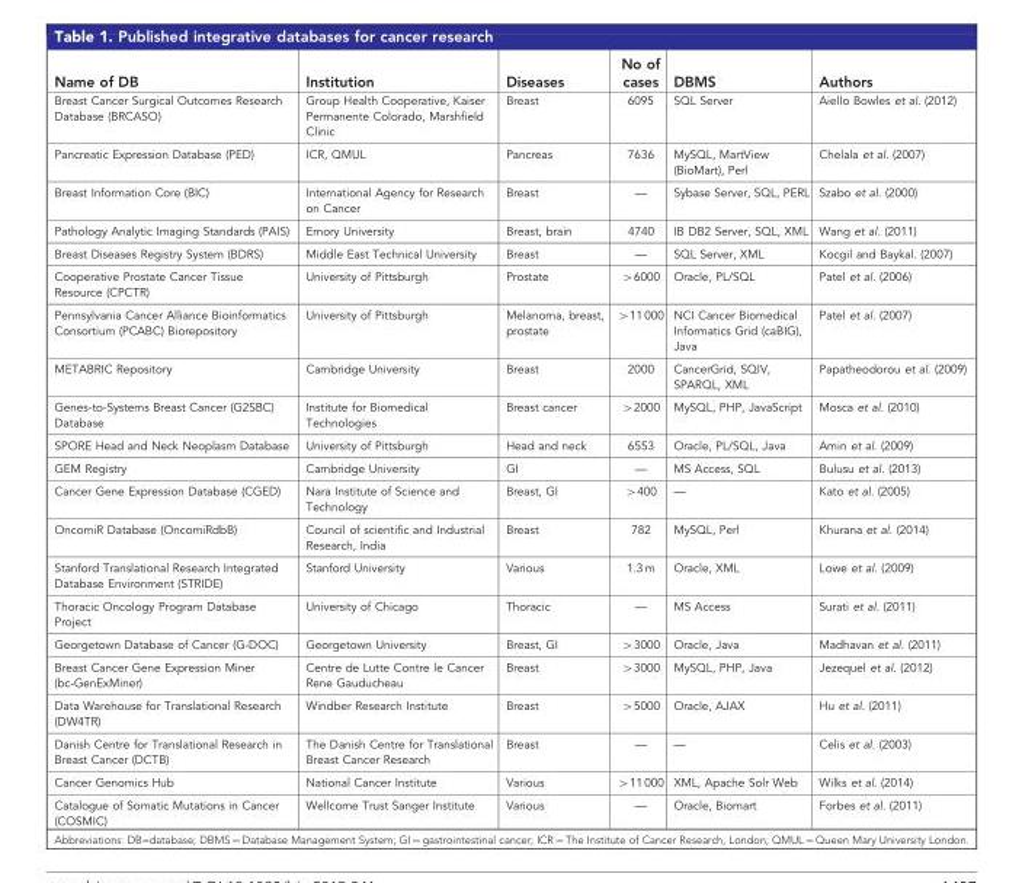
<table><thead><tr><td>Name of DB</td><td>Institution</td><td>Diseases</td><td>No of cases</td><td>DBMS</td><td>Authors</td></tr></thead><tbody><tr><td>Breast Cancer Surgical Outcomes Research Database (BRCASO)</td><td>Group Health Cooperative, Kaiser Permanente Colorado, Marshfield Clinic</td><td>Breast</td><td>6095</td><td>SQL Server</td><td>Aiello Bowles et al. (2012)</td></tr><tr><td>Pancreatic Expression Database (PED)</td><td>ICR, QMUL</td><td>Pancreas</td><td>7636</td><td>MySQL, MartView (BioMart), Perl</td><td>Chelala et al. (2007)</td></tr><tr><td>Breast Information Core (BIC)</td><td>International Agency for Research on Cancer</td><td>Breast</td><td>—</td><td>Sybase Server, SQL, PERL</td><td>Szabo et al. (2000)</td></tr><tr><td>Pathology Analytic Imaging Standards (PAIS)</td><td>Emory University</td><td>Breast, brain</td><td>4740</td><td>IB DB2 Server, SQL, XML</td><td>Wang et al. (2011)</td></tr><tr><td>Breast Diseases Registry System (BDRS)</td><td>Middle East Technical University</td><td>Breast</td><td>—</td><td>SQL Server, XML</td><td>Kocgil and Baykal. (2007)</td></tr><tr><td>Cooperative Prostate Cancer Tissue Resource (CPCTR)</td><td>University of Pittsburgh</td><td>Prostate</td><td>&gt;6000</td><td>Oracle, PL/SQL</td><td>Patel et al. (2006)</td></tr><tr><td>Pennsylvania Cancer Alliance Bioinformatics Consortium (PCABC) Biorepository</td><td>University of Pittsburgh</td><td>Melanoma, breast, prostate</td><td>&gt;11 000</td><td>NCI Cancer Biomedical Informatics Grid (caBIG), Java</td><td>Patel et al. (2007)</td></tr><tr><td>METABRIC Repository</td><td>Cambridge University</td><td>Breast</td><td>2000</td><td>CancerGrid, SQIV, SPARQL, XML</td><td>Papatheodorou et al. (2009)</td></tr><tr><td>Genes-to-Systems Breast Cancer (G2SBC) Database</td><td>Institute for Biomedical Technologies</td><td>Breast cancer</td><td>&gt;2000</td><td>MySQL, PHP, JavaScript</td><td>Mosca et al. (2010)</td></tr><tr><td>SPORE Head and Neck Neoplasm Database</td><td>University of Pittsburgh</td><td>Head and neck</td><td>6553</td><td>Oracle, PL/SQL, Java</td><td>Amin et al. (2009)</td></tr><tr><td>GEM Registry</td><td>Cambridge University</td><td>GI</td><td>—</td><td>MS Access, SQL</td><td>Bulusu et al. (2013)</td></tr><tr><td>Cancer Gene Expression Database (CGED)</td><td>Nara Institute of Science and Technology</td><td>Breast, GI</td><td>&gt;400</td><td>—</td><td>Kato et al. (2005)</td></tr><tr><td>OncomiR Database (OncomiRdbB)</td><td>Council of scientific and Industrial Research, India</td><td>Breast</td><td>782</td><td>MySQL, Perl</td><td>Khurana et al. (2014)</td></tr><tr><td>Stanford Translational Research Integrated Database Environment (STRIDE)</td><td>Stanford University</td><td>Various</td><td>1.3 m</td><td>Oracle, XML</td><td>Lowe et al. (2009)</td></tr><tr><td>Thoracic Oncology Program Database Project</td><td>University of Chicago</td><td>Thoracic</td><td>—</td><td>MS Access</td><td>Surati et al. (2011)</td></tr><tr><td>Georgetown Database of Cancer (G-DOC)</td><td>Georgetown University</td><td>Breast, GI</td><td>&gt;3000</td><td>Oracle, Java</td><td>Madhavan et al. (2011)</td></tr><tr><td>Breast Cancer Gene Expression Miner (bc-GenExMiner)</td><td>Centre de Lutte Contre le Cancer Rene Gauducheau</td><td>Breast</td><td>&gt;3000</td><td>MySQL, PHP, Java</td><td>Jezequel et al. (2012)</td></tr><tr><td>Data Warehouse for Translational Research (DW4TR)</td><td>Windber Research Institute</td><td>Breast</td><td>&gt;5000</td><td>Oracle, AJAX</td><td>Hu et al. (2011)</td></tr><tr><td>Danish Centre for Translational Research in Breast Cancer (DCTB)</td><td>The Danish Centre for Translational Breast Cancer Research</td><td>Breast</td><td>—</td><td>—</td><td>Celis et al. (2003)</td></tr><tr><td>Cancer Genomics Hub</td><td>National Cancer Institute</td><td>Various</td><td>&gt;11 000</td><td>XML, Apache Solr Web</td><td>Wilks et al. (2014)</td></tr><tr><td>Catalogue of Somatic Mutations in Cancer (COSMIC)</td><td>Wellcome Trust Sanger Institute</td><td>Various</td><td>—</td><td>Oracle, Biomart</td><td>Forbes et al. (2011)</td></tr></tbody></table>